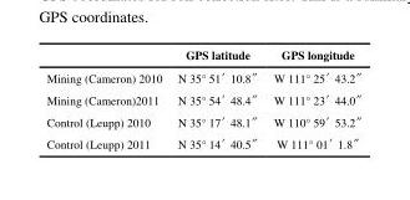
<table><thead><tr><td></td><td>GPS latitude</td><td>GPS longitude</td></tr></thead><tbody><tr><td>Mining (Cameron) 2010</td><td>N 35° 51′ 10.8″</td><td>W 111° 25′ 43.2″</td></tr><tr><td>Mining (Cameron)2011</td><td>N 35° 54′ 48.4″</td><td>W 111° 23′ 44.0″</td></tr><tr><td>Control (Leupp) 2010</td><td>N 35° 17′ 48.1″</td><td>W 110° 59′ 53.2″</td></tr><tr><td>Control (Leupp) 2011</td><td>N 35° 14′ 40.5″</td><td>W 111° 01′ 1.8″</td></tr></tbody></table>